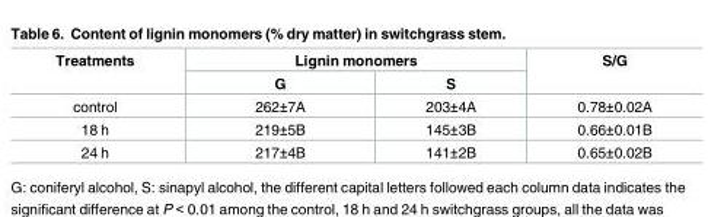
<table><thead><tr><td rowspan="2">Treatments</td><td colspan="2">Lignin monomers</td><td rowspan="2">S/G</td></tr><tr><td>G</td><td>S</td></tr></thead><tbody><tr><td>control</td><td>262±7A</td><td>203±4A</td><td>0.78±0.02A</td></tr><tr><td>18 h</td><td>219±5B</td><td>145±3B</td><td>0.66±0.01B</td></tr><tr><td>24 h</td><td>217±4B</td><td>141±2B</td><td>0.65±0.02B</td></tr></tbody></table>